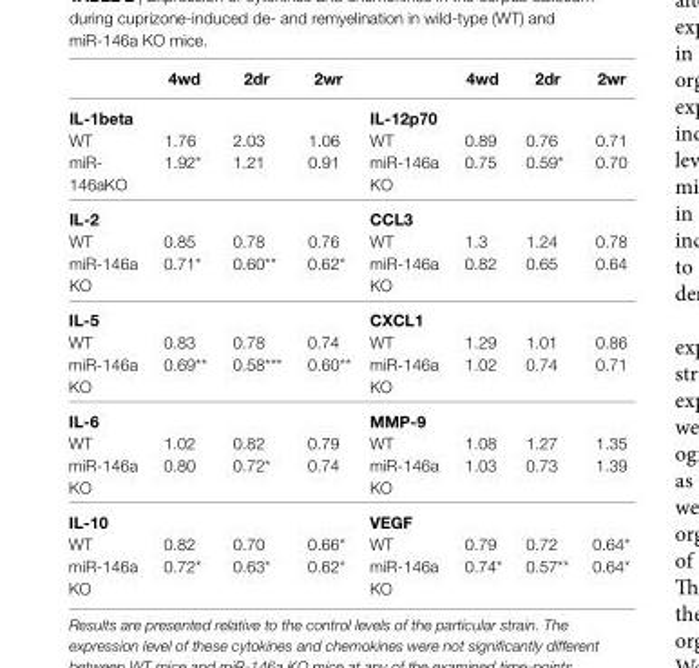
<table><thead><tr><td></td><td>4wd</td><td>2dr</td><td>2wr</td><td></td><td>4wd</td><td>2dr</td><td>2wr</td></tr></thead><tbody><tr><td>il-1beta</td><td></td><td></td><td></td><td>il-12p70</td><td></td><td></td><td></td></tr><tr><td>WT</td><td>1.76</td><td>2.03</td><td>1.06</td><td>WT</td><td>0.89</td><td>0.76</td><td>0.71</td></tr><tr><td>miR- 146aKO</td><td>1.92*</td><td>1.21</td><td>0.91</td><td>miR-146a KO</td><td>0.75</td><td>0.59*</td><td>0.70</td></tr><tr><td>il-2</td><td></td><td></td><td></td><td>ccl3</td><td></td><td></td><td></td></tr><tr><td>WT</td><td>0.85</td><td>0.78</td><td>0.76</td><td>WT</td><td>1.3</td><td>1.24</td><td>0.78</td></tr><tr><td>miR-146a KO</td><td>0.71*</td><td>0.60**</td><td>0.62*</td><td>miR-146a KO</td><td>0.82</td><td>0.65</td><td>0.64</td></tr><tr><td>il-5</td><td></td><td></td><td></td><td>cXcl1</td><td></td><td></td><td></td></tr><tr><td>WT</td><td>0.83</td><td>0.78</td><td>0.74</td><td>WT</td><td>1.29</td><td>1.01</td><td>0.86</td></tr><tr><td>miR-146a KO</td><td>0.69**</td><td>0.58***</td><td>0.60**</td><td>miR-146a KO</td><td>1.02</td><td>0.74</td><td>0.71</td></tr><tr><td>il-6</td><td></td><td></td><td></td><td>MMP-9</td><td></td><td></td><td></td></tr><tr><td>WT</td><td>1.02</td><td>0.82</td><td>0.79</td><td>WT</td><td>1.08</td><td>1.27</td><td>1.35</td></tr><tr><td>miR-146a KO</td><td>0.80</td><td>0.72*</td><td>0.74</td><td>miR-146a KO</td><td>1.03</td><td>0.73</td><td>1.39</td></tr><tr><td>il-10</td><td></td><td></td><td></td><td>VegF</td><td></td><td></td><td></td></tr><tr><td>WT</td><td>0.82</td><td>0.70</td><td>0.66*</td><td>WT</td><td>0.79</td><td>0.72</td><td>0.64*</td></tr><tr><td>miR-146a KO</td><td>0.72*</td><td>0.63*</td><td>0.62*</td><td>miR-146a KO</td><td>0.74*</td><td>0.57**</td><td>0.64*</td></tr></tbody></table>